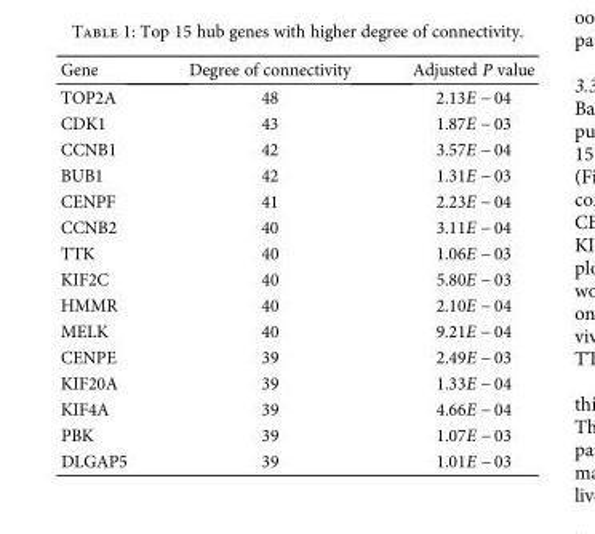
<table><thead><tr><td>Gene</td><td>Degree of connectivity</td><td>Adjusted P value</td></tr></thead><tbody><tr><td>TOP2A</td><td>48</td><td>2.13E − 04</td></tr><tr><td>CDK1</td><td>43</td><td>1.87E − 03</td></tr><tr><td>CCNB1</td><td>42</td><td>3.57E − 04</td></tr><tr><td>BUB1</td><td>42</td><td>1.31E − 03</td></tr><tr><td>CENPF</td><td>41</td><td>2.23E − 04</td></tr><tr><td>CCNB2</td><td>40</td><td>3.11E − 04</td></tr><tr><td>TTK</td><td>40</td><td>1.06E − 03</td></tr><tr><td>KIF2C</td><td>40</td><td>5.80E − 03</td></tr><tr><td>HMMR</td><td>40</td><td>2.10E − 04</td></tr><tr><td>MELK</td><td>40</td><td>9.21E − 04</td></tr><tr><td>CENPE</td><td>39</td><td>2.49E − 03</td></tr><tr><td>KIF20A</td><td>39</td><td>1.33E − 04</td></tr><tr><td>KIF4A</td><td>39</td><td>4.66E − 04</td></tr><tr><td>PBK</td><td>39</td><td>1.07E − 03</td></tr><tr><td>DLGAP5</td><td>39</td><td>1.01E − 03</td></tr></tbody></table>